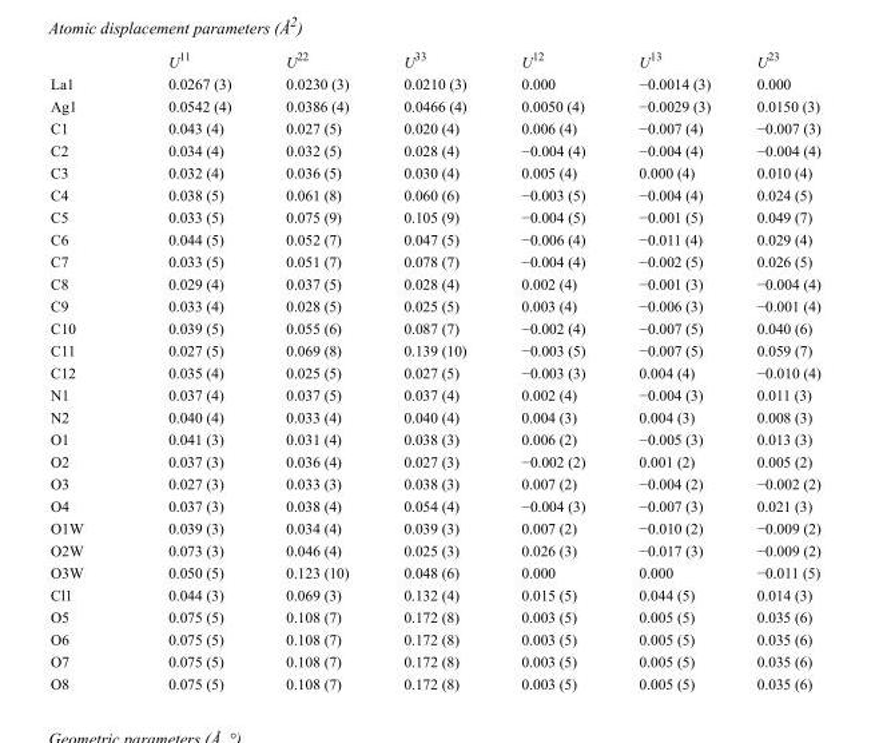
<table><thead><tr><td></td><td>U<sup>11</sup></td><td>U<sup>22</sup></td><td>U<sup>33</sup></td><td>U<sup>12</sup></td><td>U<sup>13</sup></td><td>U<sup>23</sup></td></tr></thead><tbody><tr><td>La1</td><td>0.0267 (3)</td><td>0.0230 (3)</td><td>0.0210 (3)</td><td>0.000</td><td>−0.0014 (3)</td><td>0.000</td></tr><tr><td>Ag1</td><td>0.0542 (4)</td><td>0.0386 (4)</td><td>0.0466 (4)</td><td>0.0050 (4)</td><td>−0.0029 (3)</td><td>0.0150 (3)</td></tr><tr><td>C1</td><td>0.043 (4)</td><td>0.027 (5)</td><td>0.020 (4)</td><td>0.006 (4)</td><td>−0.007 (4)</td><td>−0.007 (3)</td></tr><tr><td>C2</td><td>0.034 (4)</td><td>0.032 (5)</td><td>0.028 (4)</td><td>−0.004 (4)</td><td>−0.004 (4)</td><td>−0.004 (4)</td></tr><tr><td>C3</td><td>0.032 (4)</td><td>0.036 (5)</td><td>0.030 (4)</td><td>0.005 (4)</td><td>0.000 (4)</td><td>0.010 (4)</td></tr><tr><td>C4</td><td>0.038 (5)</td><td>0.061 (8)</td><td>0.060 (6)</td><td>−0.003 (5)</td><td>−0.004 (4)</td><td>0.024 (5)</td></tr><tr><td>C5</td><td>0.033 (5)</td><td>0.075 (9)</td><td>0.105 (9)</td><td>−0.004 (5)</td><td>−0.001 (5)</td><td>0.049 (7)</td></tr><tr><td>C6</td><td>0.044 (5)</td><td>0.052 (7)</td><td>0.047 (5)</td><td>−0.006 (4)</td><td>−0.011 (4)</td><td>0.029 (4)</td></tr><tr><td>C7</td><td>0.033 (5)</td><td>0.051 (7)</td><td>0.078 (7)</td><td>−0.004 (4)</td><td>−0.002 (5)</td><td>0.026 (5)</td></tr><tr><td>C8</td><td>0.029 (4)</td><td>0.037 (5)</td><td>0.028 (4)</td><td>0.002 (4)</td><td>−0.001 (3)</td><td>−0.004 (4)</td></tr><tr><td>C9</td><td>0.033 (4)</td><td>0.028 (5)</td><td>0.025 (5)</td><td>0.003 (4)</td><td>−0.006 (3)</td><td>−0.001 (4)</td></tr><tr><td>C10</td><td>0.039 (5)</td><td>0.055 (6)</td><td>0.087 (7)</td><td>−0.002 (4)</td><td>−0.007 (5)</td><td>0.040 (6)</td></tr><tr><td>C11</td><td>0.027 (5)</td><td>0.069 (8)</td><td>0.139 (10)</td><td>−0.003 (5)</td><td>−0.007 (5)</td><td>0.059 (7)</td></tr><tr><td>C12</td><td>0.035 (4)</td><td>0.025 (5)</td><td>0.027 (5)</td><td>−0.003 (3)</td><td>0.004 (4)</td><td>−0.010 (4)</td></tr><tr><td>N1</td><td>0.037 (4)</td><td>0.037 (5)</td><td>0.037 (4)</td><td>0.002 (4)</td><td>−0.004 (3)</td><td>0.011 (3)</td></tr><tr><td>N2</td><td>0.040 (4)</td><td>0.033 (4)</td><td>0.040 (4)</td><td>0.004 (3)</td><td>0.004 (3)</td><td>0.008 (3)</td></tr><tr><td>O1</td><td>0.041 (3)</td><td>0.031 (4)</td><td>0.038 (3)</td><td>0.006 (2)</td><td>−0.005 (3)</td><td>0.013 (3)</td></tr><tr><td>O2</td><td>0.037 (3)</td><td>0.036 (4)</td><td>0.027 (3)</td><td>−0.002 (2)</td><td>0.001 (2)</td><td>0.005 (2)</td></tr><tr><td>O3</td><td>0.027 (3)</td><td>0.033 (3)</td><td>0.038 (3)</td><td>0.007 (2)</td><td>−0.004 (2)</td><td>−0.002 (2)</td></tr><tr><td>O4</td><td>0.037 (3)</td><td>0.038 (4)</td><td>0.054 (4)</td><td>−0.004 (3)</td><td>−0.007 (3)</td><td>0.021 (3)</td></tr><tr><td>O1W</td><td>0.039 (3)</td><td>0.034 (4)</td><td>0.039 (3)</td><td>0.007 (2)</td><td>−0.010 (2)</td><td>−0.009 (2)</td></tr><tr><td>O2W</td><td>0.073 (3)</td><td>0.046 (4)</td><td>0.025 (3)</td><td>0.026 (3)</td><td>−0.017 (3)</td><td>−0.009 (2)</td></tr><tr><td>O3W</td><td>0.050 (5)</td><td>0.123 (10)</td><td>0.048 (6)</td><td>0.000</td><td>0.000</td><td>−0.011 (5)</td></tr><tr><td>Cl1</td><td>0.044 (3)</td><td>0.069 (3)</td><td>0.132 (4)</td><td>0.015 (5)</td><td>0.044 (5)</td><td>0.014 (3)</td></tr><tr><td>O5</td><td>0.075 (5)</td><td>0.108 (7)</td><td>0.172 (8)</td><td>0.003 (5)</td><td>0.005 (5)</td><td>0.035 (6)</td></tr><tr><td>O6</td><td>0.075 (5)</td><td>0.108 (7)</td><td>0.172 (8)</td><td>0.003 (5)</td><td>0.005 (5)</td><td>0.035 (6)</td></tr><tr><td>O7</td><td>0.075 (5)</td><td>0.108 (7)</td><td>0.172 (8)</td><td>0.003 (5)</td><td>0.005 (5)</td><td>0.035 (6)</td></tr><tr><td>O8</td><td>0.075 (5)</td><td>0.108 (7)</td><td>0.172 (8)</td><td>0.003 (5)</td><td>0.005 (5)</td><td>0.035 (6)</td></tr></tbody></table>